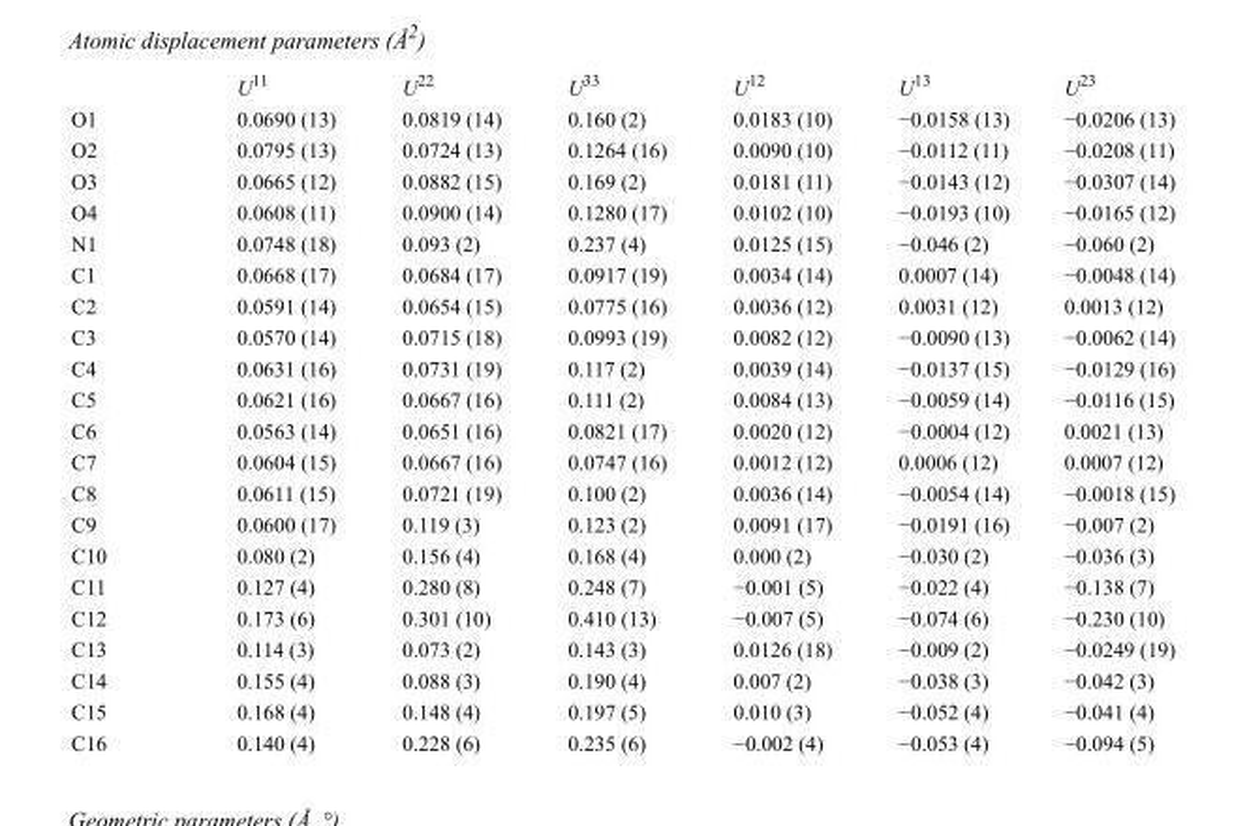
<table><thead><tr><td></td><td>U<sup>11</sup></td><td>U<sup>22</sup></td><td>U<sup>33</sup></td><td>U<sup>12</sup></td><td>U<sup>13</sup></td><td>U<sup>23</sup></td></tr></thead><tbody><tr><td>O1</td><td>0.0690 (13)</td><td>0.0819 (14)</td><td>0.160 (2)</td><td>0.0183 (10)</td><td>−0.0158 (13)</td><td>−0.0206 (13)</td></tr><tr><td>O2</td><td>0.0795 (13)</td><td>0.0724 (13)</td><td>0.1264 (16)</td><td>0.0090 (10)</td><td>−0.0112 (11)</td><td>−0.0208 (11)</td></tr><tr><td>O3</td><td>0.0665 (12)</td><td>0.0882 (15)</td><td>0.169 (2)</td><td>0.0181 (11)</td><td>−0.0143 (12)</td><td>−0.0307 (14)</td></tr><tr><td>O4</td><td>0.0608 (11)</td><td>0.0900 (14)</td><td>0.1280 (17)</td><td>0.0102 (10)</td><td>−0.0193 (10)</td><td>−0.0165 (12)</td></tr><tr><td>N1</td><td>0.0748 (18)</td><td>0.093 (2)</td><td>0.237 (4)</td><td>0.0125 (15)</td><td>−0.046 (2)</td><td>−0.060 (2)</td></tr><tr><td>C1</td><td>0.0668 (17)</td><td>0.0684 (17)</td><td>0.0917 (19)</td><td>0.0034 (14)</td><td>0.0007 (14)</td><td>−0.0048 (14)</td></tr><tr><td>C2</td><td>0.0591 (14)</td><td>0.0654 (15)</td><td>0.0775 (16)</td><td>0.0036 (12)</td><td>0.0031 (12)</td><td>0.0013 (12)</td></tr><tr><td>C3</td><td>0.0570 (14)</td><td>0.0715 (18)</td><td>0.0993 (19)</td><td>0.0082 (12)</td><td>−0.0090 (13)</td><td>−0.0062 (14)</td></tr><tr><td>C4</td><td>0.0631 (16)</td><td>0.0731 (19)</td><td>0.117 (2)</td><td>0.0039 (14)</td><td>−0.0137 (15)</td><td>−0.0129 (16)</td></tr><tr><td>C5</td><td>0.0621 (16)</td><td>0.0667 (16)</td><td>0.111 (2)</td><td>0.0084 (13)</td><td>−0.0059 (14)</td><td>−0.0116 (15)</td></tr><tr><td>C6</td><td>0.0563 (14)</td><td>0.0651 (16)</td><td>0.0821 (17)</td><td>0.0020 (12)</td><td>−0.0004 (12)</td><td>0.0021 (13)</td></tr><tr><td>C7</td><td>0.0604 (15)</td><td>0.0667 (16)</td><td>0.0747 (16)</td><td>0.0012 (12)</td><td>0.0006 (12)</td><td>0.0007 (12)</td></tr><tr><td>C8</td><td>0.0611 (15)</td><td>0.0721 (19)</td><td>0.100 (2)</td><td>0.0036 (14)</td><td>−0.0054 (14)</td><td>−0.0018 (15)</td></tr><tr><td>C9</td><td>0.0600 (17)</td><td>0.119 (3)</td><td>0.123 (2)</td><td>0.0091 (17)</td><td>−0.0191 (16)</td><td>−0.007 (2)</td></tr><tr><td>C10</td><td>0.080 (2)</td><td>0.156 (4)</td><td>0.168 (4)</td><td>0.000 (2)</td><td>−0.030 (2)</td><td>−0.036 (3)</td></tr><tr><td>C11</td><td>0.127 (4)</td><td>0.280 (8)</td><td>0.248 (7)</td><td>−0.001 (5)</td><td>−0.022 (4)</td><td>−0.138 (7)</td></tr><tr><td>C12</td><td>0.173 (6)</td><td>0.301 (10)</td><td>0.410 (13)</td><td>−0.007 (5)</td><td>−0.074 (6)</td><td>−0.230 (10)</td></tr><tr><td>C13</td><td>0.114 (3)</td><td>0.073 (2)</td><td>0.143 (3)</td><td>0.0126 (18)</td><td>−0.009 (2)</td><td>−0.0249 (19)</td></tr><tr><td>C14</td><td>0.155 (4)</td><td>0.088 (3)</td><td>0.190 (4)</td><td>0.007 (2)</td><td>−0.038 (3)</td><td>−0.042 (3)</td></tr><tr><td>C15</td><td>0.168 (4)</td><td>0.148 (4)</td><td>0.197 (5)</td><td>0.010 (3)</td><td>−0.052 (4)</td><td>−0.041 (4)</td></tr><tr><td>C16</td><td>0.140 (4)</td><td>0.228 (6)</td><td>0.235 (6)</td><td>−0.002 (4)</td><td>−0.053 (4)</td><td>−0.094 (5)</td></tr></tbody></table>